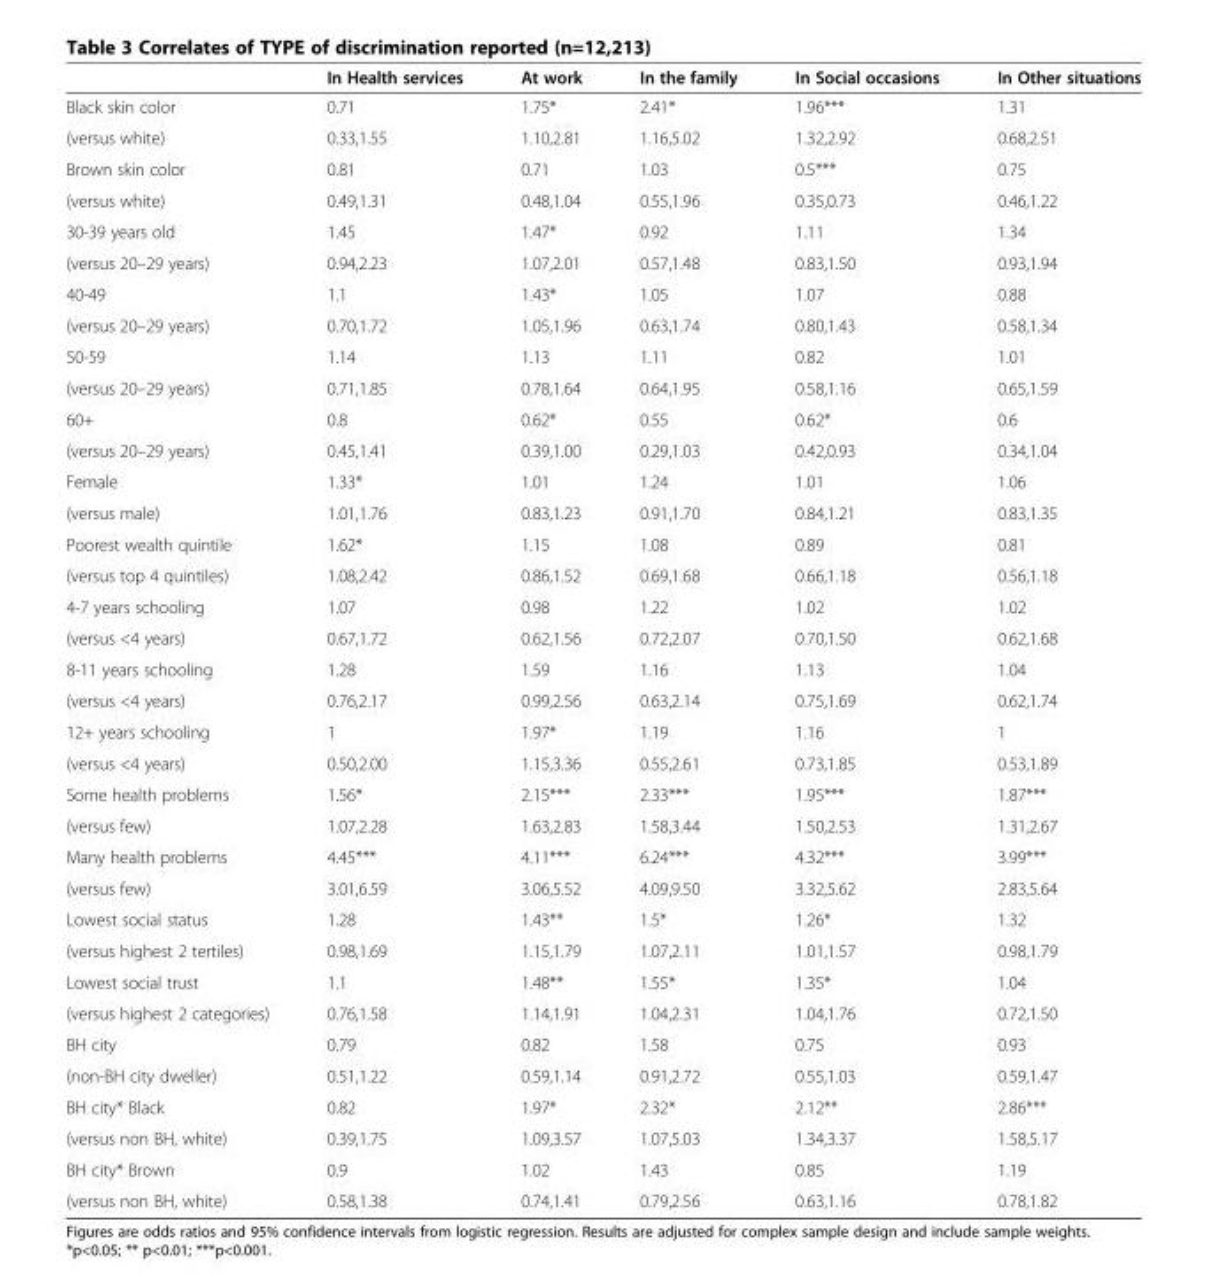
<table><thead><tr><td></td><td>In Health services</td><td>At work</td><td>In the family</td><td>In Social occasions</td><td>In Other situations</td></tr></thead><tbody><tr><td>Black skin color</td><td>0.71</td><td>1.75*</td><td>2.41*</td><td>1.96***</td><td>1.31</td></tr><tr><td>(versus white)</td><td>0.33,1.55</td><td>1.10,2.81</td><td>1.16,5.02</td><td>1.32,2.92</td><td>0.68,2.51</td></tr><tr><td>Brown skin color</td><td>0.81</td><td>0.71</td><td>1.03</td><td>0.5***</td><td>0.75</td></tr><tr><td>(versus white)</td><td>0.49,1.31</td><td>0.48,1.04</td><td>0.55,1.96</td><td>0.35,0.73</td><td>0.46,1.22</td></tr><tr><td>30-39 years old</td><td>1.45</td><td>1.47*</td><td>0.92</td><td>1.11</td><td>1.34</td></tr><tr><td>(versus 20–29 years)</td><td>0.94,2.23</td><td>1.07,2.01</td><td>0.57,1.48</td><td>0.83,1.50</td><td>0.93,1.94</td></tr><tr><td>40-49</td><td>1.1</td><td>1.43*</td><td>1.05</td><td>1.07</td><td>0.88</td></tr><tr><td>(versus 20–29 years)</td><td>0.70,1.72</td><td>1.05,1.96</td><td>0.63,1.74</td><td>0.80,1.43</td><td>0.58,1.34</td></tr><tr><td>50-59</td><td>1.14</td><td>1.13</td><td>1.11</td><td>0.82</td><td>1.01</td></tr><tr><td>(versus 20–29 years)</td><td>0.71,1.85</td><td>0.78,1.64</td><td>0.64,1.95</td><td>0.58,1.16</td><td>0.65,1.59</td></tr><tr><td>60+</td><td>0.8</td><td>0.62*</td><td>0.55</td><td>0.62*</td><td>0.6</td></tr><tr><td>(versus 20–29 years)</td><td>0.45,1.41</td><td>0.39,1.00</td><td>0.29,1.03</td><td>0.42,0.93</td><td>0.34,1.04</td></tr><tr><td>Female</td><td>1.33*</td><td>1.01</td><td>1.24</td><td>1.01</td><td>1.06</td></tr><tr><td>(versus male)</td><td>1.01,1.76</td><td>0.83,1.23</td><td>0.91,1.70</td><td>0.84,1.21</td><td>0.83,1.35</td></tr><tr><td>Poorest wealth quintile</td><td>1.62*</td><td>1.15</td><td>1.08</td><td>0.89</td><td>0.81</td></tr><tr><td>(versus top 4 quintiles)</td><td>1.08,2.42</td><td>0.86,1.52</td><td>0.69,1.68</td><td>0.66,1.18</td><td>0.56,1.18</td></tr><tr><td>4-7 years schooling</td><td>1.07</td><td>0.98</td><td>1.22</td><td>1.02</td><td>1.02</td></tr><tr><td>(versus &lt;4 years)</td><td>0.67,1.72</td><td>0.62,1.56</td><td>0.72,2.07</td><td>0.70,1.50</td><td>0.62,1.68</td></tr><tr><td>8-11 years schooling</td><td>1.28</td><td>1.59</td><td>1.16</td><td>1.13</td><td>1.04</td></tr><tr><td>(versus &lt;4 years)</td><td>0.76,2.17</td><td>0.99,2.56</td><td>0.63,2.14</td><td>0.75,1.69</td><td>0.62,1.74</td></tr><tr><td>12+ years schooling</td><td>1</td><td>1.97*</td><td>1.19</td><td>1.16</td><td>1</td></tr><tr><td>(versus &lt;4 years)</td><td>0.50,2.00</td><td>1.15,3.36</td><td>0.55,2.61</td><td>0.73,1.85</td><td>0.53,1.89</td></tr><tr><td>Some health problems</td><td>1.56*</td><td>2.15***</td><td>2.33***</td><td>1.95***</td><td>1.87***</td></tr><tr><td>(versus few)</td><td>1.07,2.28</td><td>1.63,2.83</td><td>1.58,3.44</td><td>1.50,2.53</td><td>1.31,2.67</td></tr><tr><td>Many health problems</td><td>4.45***</td><td>4.11***</td><td>6.24***</td><td>4.32***</td><td>3.99***</td></tr><tr><td>(versus few)</td><td>3.01,6.59</td><td>3.06,5.52</td><td>4.09,9.50</td><td>3.32,5.62</td><td>2.83,5.64</td></tr><tr><td>Lowest social status</td><td>1.28</td><td>1.43**</td><td>1.5*</td><td>1.26*</td><td>1.32</td></tr><tr><td>(versus highest 2 tertiles)</td><td>0.98,1.69</td><td>1.15,1.79</td><td>1.07,2.11</td><td>1.01,1.57</td><td>0.98,1.79</td></tr><tr><td>Lowest social trust</td><td>1.1</td><td>1.48**</td><td>1.55*</td><td>1.35*</td><td>1.04</td></tr><tr><td>(versus highest 2 categories)</td><td>0.76,1.58</td><td>1.14,1.91</td><td>1.04,2.31</td><td>1.04,1.76</td><td>0.72,1.50</td></tr><tr><td>BH city</td><td>0.79</td><td>0.82</td><td>1.58</td><td>0.75</td><td>0.93</td></tr><tr><td>(non-BH city dweller)</td><td>0.51,1.22</td><td>0.59,1.14</td><td>0.91,2.72</td><td>0.55,1.03</td><td>0.59,1.47</td></tr><tr><td>BH city* Black</td><td>0.82</td><td>1.97*</td><td>2.32*</td><td>2.12**</td><td>2.86***</td></tr><tr><td>(versus non BH, white)</td><td>0.39,1.75</td><td>1.09,3.57</td><td>1.07,5.03</td><td>1.34,3.37</td><td>1.58,5.17</td></tr><tr><td>BH city* Brown</td><td>0.9</td><td>1.02</td><td>1.43</td><td>0.85</td><td>1.19</td></tr><tr><td>(versus non BH, white)</td><td>0.58,1.38</td><td>0.74,1.41</td><td>0.79,2.56</td><td>0.63,1.16</td><td>0.78,1.82</td></tr></tbody></table>